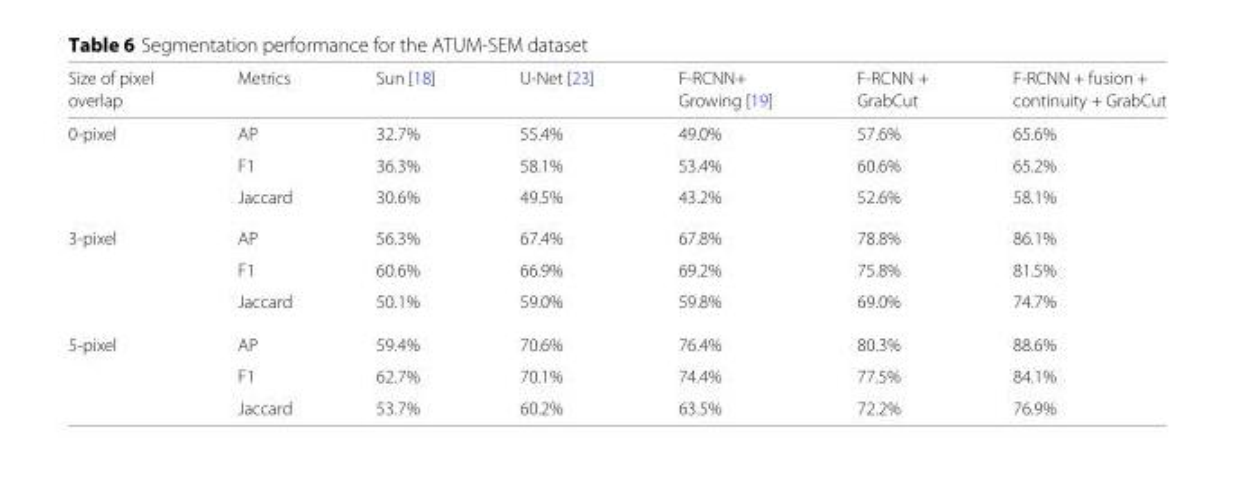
<table><thead><tr><td rowspan="2">Size of pixel overlap</td><td rowspan="2">Metrics</td><td rowspan="2">Sun [18]</td><td rowspan="2">U-Net [23]</td><td rowspan="2">F-RCNN+ Growing [19]</td><td rowspan="2">F-RCNN + GrabCut</td><td rowspan="2">F-RCNN + fusion + continuity + GrabCut</td></tr><tr></tr></thead><tbody><tr><td rowspan="3">0-pixel</td><td>AP</td><td>32.7%</td><td>55.4%</td><td>49.0%</td><td>57.6%</td><td>65.6%</td></tr><tr><td>F1</td><td>36.3%</td><td>58.1%</td><td>53.4%</td><td>60.6%</td><td>65.2%</td></tr><tr><td>Jaccard</td><td>30.6%</td><td>49.5%</td><td>43.2%</td><td>52.6%</td><td>58.1%</td></tr><tr><td rowspan="3">3-pixel</td><td>AP</td><td>56.3%</td><td>67.4%</td><td>67.8%</td><td>78.8%</td><td>86.1%</td></tr><tr><td>F1</td><td>60.6%</td><td>66.9%</td><td>69.2%</td><td>75.8%</td><td>81.5%</td></tr><tr><td>Jaccard</td><td>50.1%</td><td>59.0%</td><td>59.8%</td><td>69.0%</td><td>74.7%</td></tr><tr><td rowspan="3">5-pixel</td><td>AP</td><td>59.4%</td><td>70.6%</td><td>76.4%</td><td>80.3%</td><td>88.6%</td></tr><tr><td>F1</td><td>62.7%</td><td>70.1%</td><td>74.4%</td><td>77.5%</td><td>84.1%</td></tr><tr><td>Jaccard</td><td>53.7%</td><td>60.2%</td><td>63.5%</td><td>72.2%</td><td>76.9%</td></tr></tbody></table>